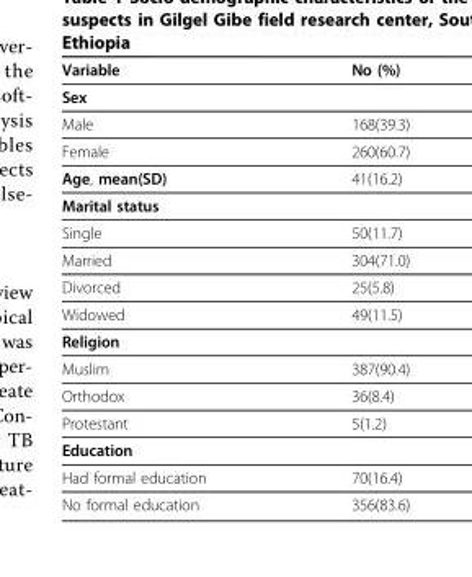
<table><thead><tr><td>Variable</td><td>No (%)</td></tr></thead><tbody><tr><td colspan="2">Sex</td></tr><tr><td>Male</td><td>168(39.3)</td></tr><tr><td>Female</td><td>260(60.7)</td></tr><tr><td>Age, mean(SD)</td><td>41(16.2)</td></tr><tr><td colspan="2">Marital status</td></tr><tr><td>Single</td><td>50(11.7)</td></tr><tr><td>Married</td><td>304(71.0)</td></tr><tr><td>Divorced</td><td>25(5.8)</td></tr><tr><td>Widowed</td><td>49(11.5)</td></tr><tr><td colspan="2">Religion</td></tr><tr><td>Muslim</td><td>387(90.4)</td></tr><tr><td>Orthodox</td><td>36(8.4)</td></tr><tr><td>Protestant</td><td>5(1.2)</td></tr><tr><td colspan="2">Education</td></tr><tr><td>Had formal education</td><td>70(16.4)</td></tr><tr><td>No formal education</td><td>356(83.6)</td></tr></tbody></table>